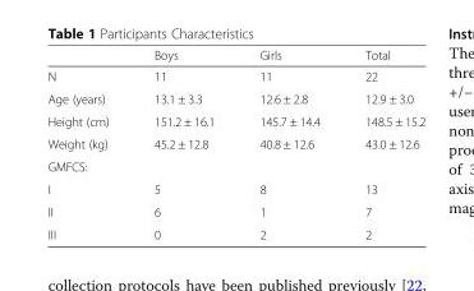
<table><thead><tr><td></td><td>Boys</td><td>Girls</td><td>Total</td></tr></thead><tbody><tr><td>N</td><td>11</td><td>11</td><td>22</td></tr><tr><td>Age (years)</td><td>13.1 ± 3.3</td><td>12.6 ± 2.8</td><td>12.9 ± 3.0</td></tr><tr><td>Height (cm)</td><td>151.2 ± 16.1</td><td>145.7 ± 14.4</td><td>148.5 ± 15.2</td></tr><tr><td>Weight (kg)</td><td>45.2 ± 12.8</td><td>40.8 ± 12.6</td><td>43.0 ± 12.6</td></tr><tr><td colspan="4">GMFCS:</td></tr><tr><td>I</td><td>5</td><td>8</td><td>13</td></tr><tr><td>II</td><td>6</td><td>1</td><td>7</td></tr><tr><td>III</td><td>0</td><td>2</td><td>2</td></tr></tbody></table>